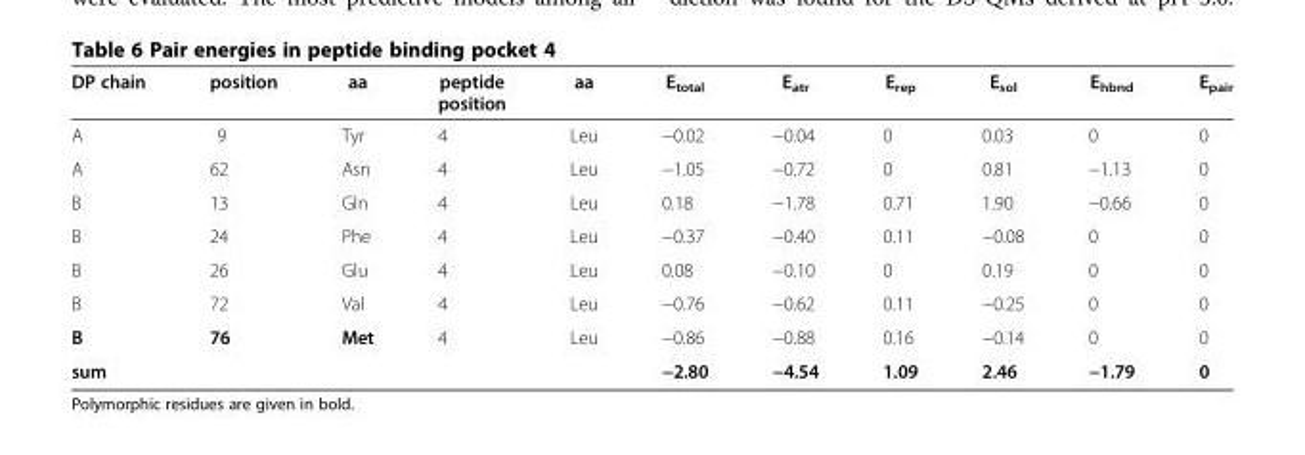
<table><thead><tr><td>DP chain</td><td>position</td><td>aa</td><td>peptide position</td><td>aa</td><td>E<sub>total</sub></td><td>E<sub>atr</sub></td><td>E<sub>rep</sub></td><td>E<sub>sol</sub></td><td>E<sub>hbnd</sub></td><td>E<sub>pair</sub></td></tr></thead><tbody><tr><td>A</td><td>9</td><td>Tyr</td><td>4</td><td>Leu</td><td>−0.02</td><td>−0.04</td><td>0</td><td>0.03</td><td>0</td><td>0</td></tr><tr><td>A</td><td>62</td><td>Asn</td><td>4</td><td>Leu</td><td>−1.05</td><td>−0.72</td><td>0</td><td>0.81</td><td>−1.13</td><td>0</td></tr><tr><td>B</td><td>13</td><td>Gln</td><td>4</td><td>Leu</td><td>0.18</td><td>−1.78</td><td>0.71</td><td>1.90</td><td>−0.66</td><td>0</td></tr><tr><td>B</td><td>24</td><td>Phe</td><td>4</td><td>Leu</td><td>−0.37</td><td>−0.40</td><td>0.11</td><td>−0.08</td><td>0</td><td>0</td></tr><tr><td>B</td><td>26</td><td>Glu</td><td>4</td><td>Leu</td><td>0.08</td><td>−0.10</td><td>0</td><td>0.19</td><td>0</td><td>0</td></tr><tr><td>B</td><td>72</td><td>Val</td><td>4</td><td>Leu</td><td>−0.76</td><td>−0.62</td><td>0.11</td><td>−0.25</td><td>0</td><td>0</td></tr><tr><td>B</td><td>76</td><td>Met</td><td>4</td><td>Leu</td><td>−0.86</td><td>−0.88</td><td>0.16</td><td>−0.14</td><td>0</td><td>0</td></tr><tr><td>sum</td><td></td><td></td><td></td><td></td><td>−2.80</td><td>−4.54</td><td>1.09</td><td>2.46</td><td>−1.79</td><td>0</td></tr></tbody></table>